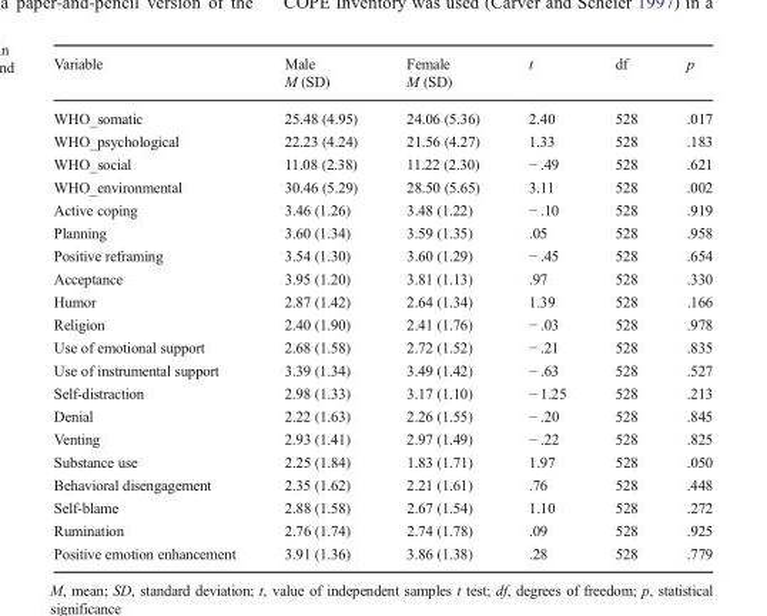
<table><thead><tr><td rowspan="2">Variable</td><td rowspan="2">Male M (SD)</td><td rowspan="2">Female M (SD)</td><td rowspan="2">t</td><td rowspan="2">df</td><td rowspan="2">p</td></tr><tr></tr></thead><tbody><tr><td>WHO_somatic</td><td>25.48 (4.95)</td><td>24.06 (5.36)</td><td>2.40</td><td>528</td><td>.017</td></tr><tr><td>WHO_psychological</td><td>22.23 (4.24)</td><td>21.56 (4.27)</td><td>1.33</td><td>528</td><td>.183</td></tr><tr><td>WHO_social</td><td>11.08 (2.38)</td><td>11.22 (2.30)</td><td>− .49</td><td>528</td><td>.621</td></tr><tr><td>WHO_environmental</td><td>30.46 (5.29)</td><td>28.50 (5.65)</td><td>3.11</td><td>528</td><td>.002</td></tr><tr><td>Active coping</td><td>3.46 (1.26)</td><td>3.48 (1.22)</td><td>− .10</td><td>528</td><td>.919</td></tr><tr><td>Planning</td><td>3.60 (1.34)</td><td>3.59 (1.35)</td><td>.05</td><td>528</td><td>.958</td></tr><tr><td>Positive reframing</td><td>3.54 (1.30)</td><td>3.60 (1.29)</td><td>− .45</td><td>528</td><td>.654</td></tr><tr><td>Acceptance</td><td>3.95 (1.20)</td><td>3.81 (1.13)</td><td>.97</td><td>528</td><td>.330</td></tr><tr><td>Humor</td><td>2.87 (1.42)</td><td>2.64 (1.34)</td><td>1.39</td><td>528</td><td>.166</td></tr><tr><td>Religion</td><td>2.40 (1.90)</td><td>2.41 (1.76)</td><td>− .03</td><td>528</td><td>.978</td></tr><tr><td>Use of emotional support</td><td>2.68 (1.58)</td><td>2.72 (1.52)</td><td>− .21</td><td>528</td><td>.835</td></tr><tr><td>Use of instrumental support</td><td>3.39 (1.34)</td><td>3.49 (1.42)</td><td>− .63</td><td>528</td><td>.527</td></tr><tr><td>Self-distraction</td><td>2.98 (1.33)</td><td>3.17 (1.10)</td><td>− 1.25</td><td>528</td><td>.213</td></tr><tr><td>Denial</td><td>2.22 (1.63)</td><td>2.26 (1.55)</td><td>− .20</td><td>528</td><td>.845</td></tr><tr><td>Venting</td><td>2.93 (1.41)</td><td>2.97 (1.49)</td><td>− .22</td><td>528</td><td>.825</td></tr><tr><td>Substance use</td><td>2.25 (1.84)</td><td>1.83 (1.71)</td><td>1.97</td><td>528</td><td>.050</td></tr><tr><td>Behavioral disengagement</td><td>2.35 (1.62)</td><td>2.21 (1.61)</td><td>.76</td><td>528</td><td>.448</td></tr><tr><td>Self-blame</td><td>2.88 (1.58)</td><td>2.67 (1.54)</td><td>1.10</td><td>528</td><td>.272</td></tr><tr><td>Rumination</td><td>2.76 (1.74)</td><td>2.74 (1.78)</td><td>.09</td><td>528</td><td>.925</td></tr><tr><td>Positive emotion enhancement</td><td>3.91 (1.36)</td><td>3.86 (1.38)</td><td>.28</td><td>528</td><td>.779</td></tr></tbody></table>